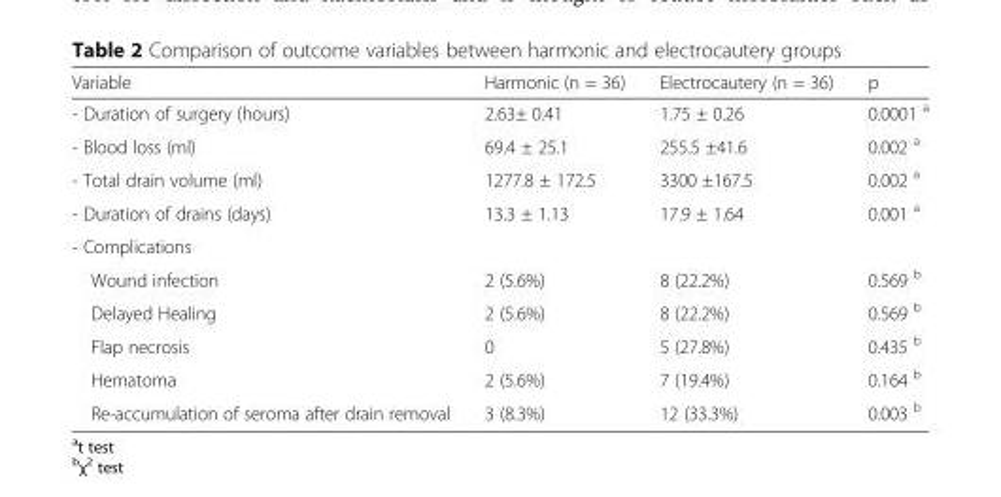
<table><thead><tr><td>Variable</td><td>Harmonic (n = 36)</td><td>Electrocautery (n = 36)</td><td>p</td></tr></thead><tbody><tr><td>- Duration of surgery (hours)</td><td>2.63± 0.41</td><td>1.75 ± 0.26</td><td>0.0001 <sup>a</sup></td></tr><tr><td>- Blood loss (ml)</td><td>69.4 ± 25.1</td><td>255.5 ±41.6</td><td>0.002 <sup>a</sup></td></tr><tr><td>- Total drain volume (ml)</td><td>1277.8 ± 172.5</td><td>3300 ±167.5</td><td>0.002 <sup>a</sup></td></tr><tr><td>- Duration of drains (days)</td><td>13.3 ± 1.13</td><td>17.9 ± 1.64</td><td>0.001 <sup>a</sup></td></tr><tr><td colspan="4">- Complications</td></tr><tr><td>Wound infection</td><td>2 (5.6%)</td><td>8 (22.2%)</td><td>0.569 <sup>b</sup></td></tr><tr><td>Delayed Healing</td><td>2 (5.6%)</td><td>8 (22.2%)</td><td>0.569 <sup>b</sup></td></tr><tr><td>Flap necrosis</td><td>0</td><td>5 (27.8%)</td><td>0.435 <sup>b</sup></td></tr><tr><td>Hematoma</td><td>2 (5.6%)</td><td>7 (19.4%)</td><td>0.164 <sup>b</sup></td></tr><tr><td>Re-accumulation of seroma after drain removal</td><td>3 (8.3%)</td><td>12 (33.3%)</td><td>0.003 <sup>b</sup></td></tr></tbody></table>